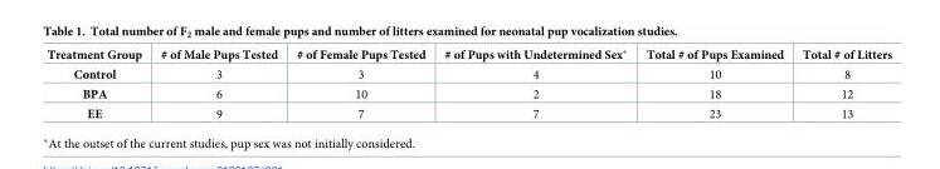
<table><thead><tr><td>Treatment Group</td><td># of Male Pups Tested</td><td># of Female Pups Tested</td><td># of Pups with Undetermined Sex*</td><td>Total # of Pups Examined</td><td>Total # of Litters</td></tr></thead><tbody><tr><td>Control</td><td>3</td><td>3</td><td>4</td><td>10</td><td>8</td></tr><tr><td>BPA</td><td>6</td><td>10</td><td>2</td><td>18</td><td>12</td></tr><tr><td>EE</td><td>9</td><td>7</td><td>7</td><td>23</td><td>13</td></tr></tbody></table>